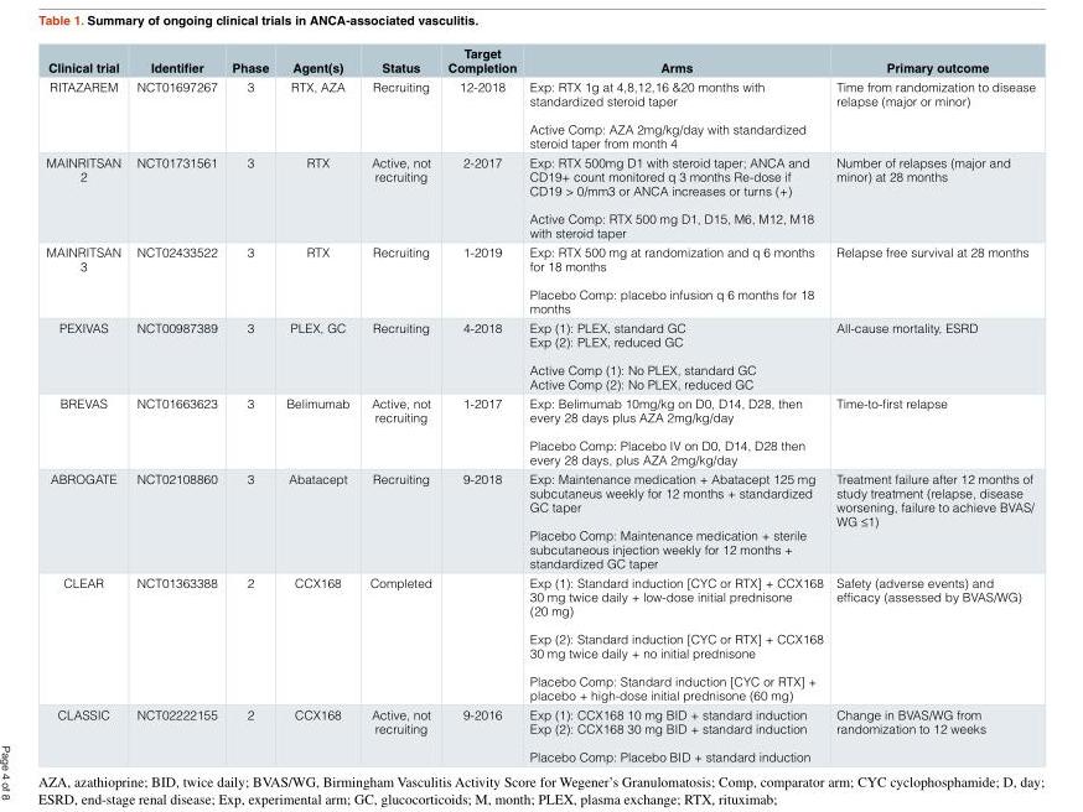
<table><thead><tr><td>Clinical trial</td><td>Identifier</td><td>Phase</td><td>Agent(s)</td><td>Status</td><td>Target Completion</td><td>Arms</td><td>Primary outcome</td></tr></thead><tbody><tr><td>RITAZAREM</td><td>NCT01697267</td><td>3</td><td>RTX, AZA</td><td>Recruiting</td><td>12-2018</td><td>Exp: RTX 1g at 4,8,12,16 &amp;20 months with standardized steroid taper Active Comp: AZA 2mg/kg/day with standardized steroid taper from month 4</td><td>Time from randomization to disease relapse (major or minor)</td></tr><tr><td>MAINRITSAN 2</td><td>NCT01731561</td><td>3</td><td>RTX</td><td>Active, not recruiting</td><td>2-2017</td><td>Exp: RTX 500mg D1 with steroid taper; ANCA and CD19+ count monitored q 3 months Re-dose if CD19 &gt; 0/mm3 or ANCA increases or turns (+) Active Comp: RTX 500 mg D1, D15, M6, M12, M18 with steroid taper</td><td>Number of relapses (major and minor) at 28 months</td></tr><tr><td>MAINRITSAN 3</td><td>NCT02433522</td><td>3</td><td>RTX</td><td>Recruiting</td><td>1-2019</td><td>Exp: RTX 500 mg at randomization and q 6 months for 18 months Placebo Comp: placebo infusion q 6 months for 18 months</td><td>Relapse free survival at 28 months</td></tr><tr><td>PEXIVAS</td><td>NCT00987389</td><td>3</td><td>PLEX, GC</td><td>Recruiting</td><td>4-2018</td><td>Exp (1): PLEX, standard GC Exp (2): PLEX, reduced GC Active Comp (1): No PLEX, standard GC Active Comp (2): No PLEX, reduced GC</td><td>All-cause mortality, ESRD</td></tr><tr><td>BREVAS</td><td>NCT01663623</td><td>3</td><td>Belimumab</td><td>Active, not recruiting</td><td>1-2017</td><td>Exp: Belimumab 10mg/kg on D0, D14, D28, then every 28 days plus AZA 2mg/kg/day Placebo Comp: Placebo IV on D0, D14, D28 then every 28 days, plus AZA 2mg/kg/day</td><td>Time-to-first relapse</td></tr><tr><td>ABROGATE</td><td>NCT02108860</td><td>3</td><td>Abatacept</td><td>Recruiting</td><td>9-2018</td><td>Exp: Maintenance medication + Abatacept 125 mg subcutaneus weekly for 12 months + standardized GC taper Placebo Comp: Maintenance medication + sterile subcutaneous injection weekly for 12 months + standardized GC taper</td><td>Treatment failure after 12 months of study treatment (relapse, disease worsening, failure to achieve BVAS/ WG ≤1)</td></tr><tr><td>CLEAR</td><td>NCT01363388</td><td>2</td><td>CCX168</td><td>Completed</td><td></td><td>Exp (1): Standard induction [CYC or RTX] + CCX168 30 mg twice daily + low-dose initial prednisone (20 mg) Exp (2): Standard induction [CYC or RTX] + CCX168 30 mg twice daily + no initial prednisone Placebo Comp: Standard induction [CYC or RTX] + placebo + high-dose initial prednisone (60 mg)</td><td>Safety (adverse events) and efficacy (assessed by BVAS/WG)</td></tr><tr><td>CLASSIC</td><td>NCT02222155</td><td>2</td><td>CCX168</td><td>Active, not recruiting</td><td>9-2016</td><td>Exp (1): CCX168 10 mg BID + standard induction Exp (2): CCX168 30 mg BID + standard induction Placebo Comp: Placebo BID + standard induction</td><td>Change in BVAS/WG from randomization to 12 weeks</td></tr></tbody></table>